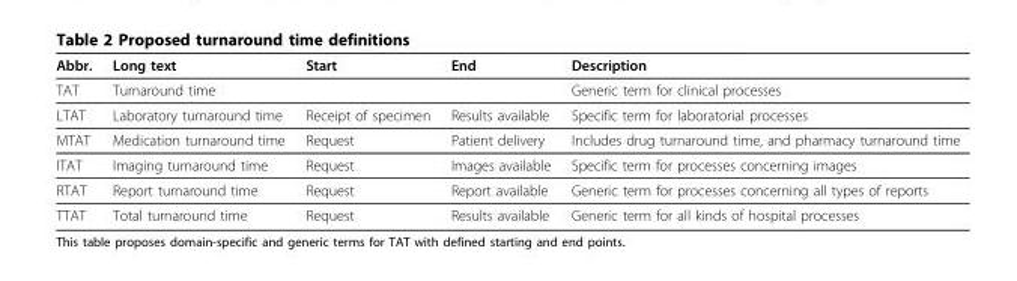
<table><thead><tr><td>Abbr.</td><td>Long text</td><td>Start</td><td>End</td><td>Description</td></tr></thead><tbody><tr><td>TAT</td><td>Turnaround time</td><td></td><td></td><td>Generic term for clinical processes</td></tr><tr><td>LTAT</td><td>Laboratory turnaround time</td><td>Receipt of specimen</td><td>Results available</td><td>Specific term for laboratorial processes</td></tr><tr><td>MTAT</td><td>Medication turnaround time</td><td>Request</td><td>Patient delivery</td><td>Includes drug turnaround time, and pharmacy turnaround time</td></tr><tr><td>ITAT</td><td>Imaging turnaround time</td><td>Request</td><td>Images available</td><td>Specific term for processes concerning images</td></tr><tr><td>RTAT</td><td>Report turnaround time</td><td>Request</td><td>Report available</td><td>Generic term for processes concerning all types of reports</td></tr><tr><td>TTAT</td><td>Total turnaround time</td><td>Request</td><td>Results available</td><td>Generic term for all kinds of hospital processes</td></tr></tbody></table>